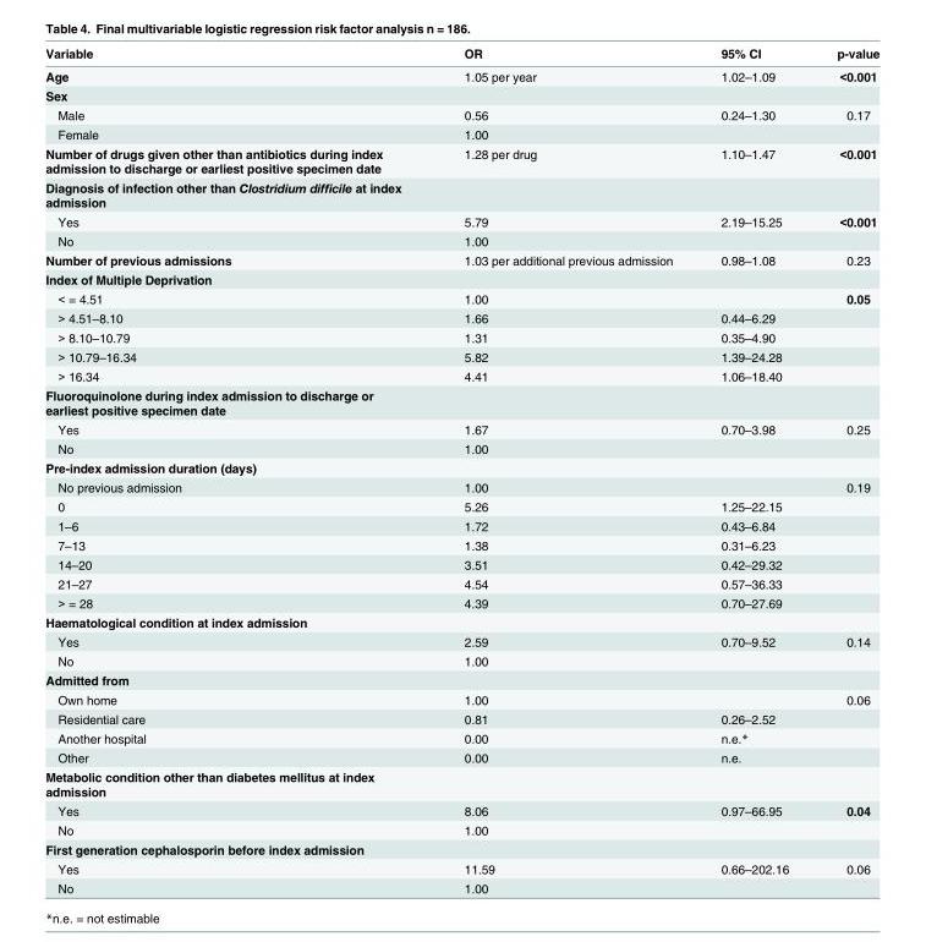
<table><thead><tr><td>Variable</td><td>OR</td><td>95% CI</td><td>p-value</td></tr></thead><tbody><tr><td>Age</td><td>1.05 per year</td><td>1.02–1.09</td><td>&lt;0.001</td></tr><tr><td colspan="4">Sex</td></tr><tr><td>Male</td><td>0.56</td><td>0.24–1.30</td><td>0.17</td></tr><tr><td>Female</td><td>1.00</td><td></td><td></td></tr><tr><td>Number of drugs given other than antibiotics during index admission to discharge or earliest positive specimen date</td><td>1.28 per drug</td><td>1.10–1.47</td><td>&lt;0.001</td></tr><tr><td colspan="4">Diagnosis of infection other than Clostridium difficile at index admission</td></tr><tr><td>Yes</td><td>5.79</td><td>2.19–15.25</td><td>&lt;0.001</td></tr><tr><td>No</td><td>1.00</td><td></td><td></td></tr><tr><td>Number of previous admissions</td><td>1.03 per additional previous admission</td><td>0.98–1.08</td><td>0.23</td></tr><tr><td colspan="4">Index of Multiple Deprivation</td></tr><tr><td>&lt; = 4.51</td><td>1.00</td><td></td><td>0.05</td></tr><tr><td>&gt; 4.51–8.10</td><td>1.66</td><td>0.44–6.29</td><td></td></tr><tr><td>&gt; 8.10–10.79</td><td>1.31</td><td>0.35–4.90</td><td></td></tr><tr><td>&gt; 10.79–16.34</td><td>5.82</td><td>1.39–24.28</td><td></td></tr><tr><td>&gt; 16.34</td><td>4.41</td><td>1.06–18.40</td><td></td></tr><tr><td colspan="4">Fluoroquinolone during index admission to discharge or earliest positive specimen date</td></tr><tr><td>Yes</td><td>1.67</td><td>0.70–3.98</td><td>0.25</td></tr><tr><td>No</td><td>1.00</td><td></td><td></td></tr><tr><td colspan="4">Pre-index admission duration (days)</td></tr><tr><td>No previous admission</td><td>1.00</td><td></td><td>0.19</td></tr><tr><td>0</td><td>5.26</td><td>1.25–22.15</td><td></td></tr><tr><td>1–6</td><td>1.72</td><td>0.43–6.84</td><td></td></tr><tr><td>7–13</td><td>1.38</td><td>0.31–6.23</td><td></td></tr><tr><td>14–20</td><td>3.51</td><td>0.42–29.32</td><td></td></tr><tr><td>21–27</td><td>4.54</td><td>0.57–36.33</td><td></td></tr><tr><td>&gt; = 28</td><td>4.39</td><td>0.70–27.69</td><td></td></tr><tr><td colspan="4">Haematological condition at index admission</td></tr><tr><td>Yes</td><td>2.59</td><td>0.70–9.52</td><td>0.14</td></tr><tr><td>No</td><td>1.00</td><td></td><td></td></tr><tr><td colspan="4">Admitted from</td></tr><tr><td>Own home</td><td>1.00</td><td></td><td>0.06</td></tr><tr><td>Residential care</td><td>0.81</td><td>0.26–2.52</td><td></td></tr><tr><td>Another hospital</td><td>0.00</td><td>n.e.*</td><td></td></tr><tr><td>Other</td><td>0.00</td><td>n.e.</td><td></td></tr><tr><td colspan="4">Metabolic condition other than diabetes mellitus at index admission</td></tr><tr><td>Yes</td><td>8.06</td><td>0.97–66.95</td><td>0.04</td></tr><tr><td>No</td><td>1.00</td><td></td><td></td></tr><tr><td colspan="4">First generation cephalosporin before index admission</td></tr><tr><td>Yes</td><td>11.59</td><td>0.66–202.16</td><td>0.06</td></tr><tr><td>No</td><td>1.00</td><td></td><td></td></tr></tbody></table>